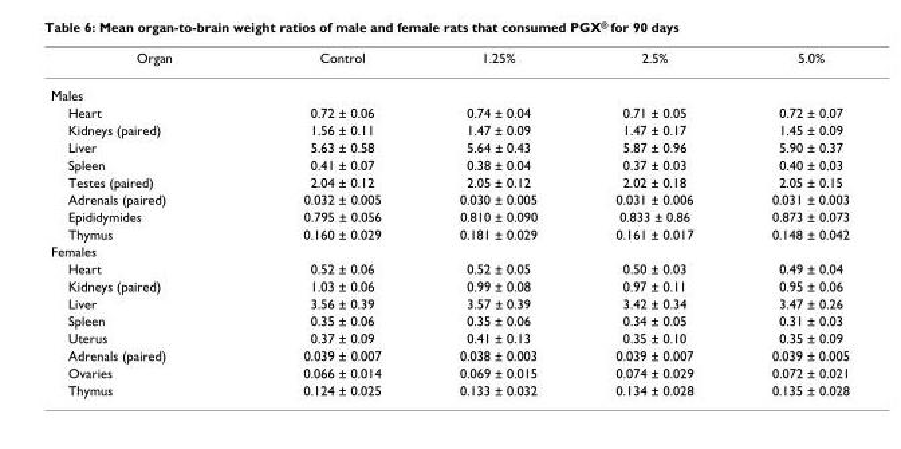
<table><thead><tr><td>Organ</td><td>Control</td><td>1.25%</td><td>2.5%</td><td>5.0%</td></tr></thead><tbody><tr><td colspan="5">Males</td></tr><tr><td>Heart</td><td>0.72 ± 0.06</td><td>0.74 ± 0.04</td><td>0.71 ± 0.05</td><td>0.72 ± 0.07</td></tr><tr><td>Kidneys (paired)</td><td>1.56 ± 0.11</td><td>1.47 ± 0.09</td><td>1.47 ± 0.17</td><td>1.45 ± 0.09</td></tr><tr><td>Liver</td><td>5.63 ± 0.58</td><td>5.64 ± 0.43</td><td>5.87 ± 0.96</td><td>5.90 ± 0.37</td></tr><tr><td>Spleen</td><td>0.41 ± 0.07</td><td>0.38 ± 0.04</td><td>0.37 ± 0.03</td><td>0.40 ± 0.03</td></tr><tr><td>Testes (paired)</td><td>2.04 ± 0.12</td><td>2.05 ± 0.12</td><td>2.02 ± 0.18</td><td>2.05 ± 0.15</td></tr><tr><td>Adrenals (paired)</td><td>0.032 ± 0.005</td><td>0.030 ± 0.005</td><td>0.031 ± 0.006</td><td>0.031 ± 0.003</td></tr><tr><td>Epididymides</td><td>0.795 ± 0.056</td><td>0.810 ± 0.090</td><td>0.833 ± 0.86</td><td>0.873 ± 0.073</td></tr><tr><td>Thymus</td><td>0.160 ± 0.029</td><td>0.181 ± 0.029</td><td>0.161 ± 0.017</td><td>0.148 ± 0.042</td></tr><tr><td colspan="5">Females</td></tr><tr><td>Heart</td><td>0.52 ± 0.06</td><td>0.52 ± 0.05</td><td>0.50 ± 0.03</td><td>0.49 ± 0.04</td></tr><tr><td>Kidneys (paired)</td><td>1.03 ± 0.06</td><td>0.99 ± 0.08</td><td>0.97 ± 0.11</td><td>0.95 ± 0.06</td></tr><tr><td>Liver</td><td>3.56 ± 0.39</td><td>3.57 ± 0.39</td><td>3.42 ± 0.34</td><td>3.47 ± 0.26</td></tr><tr><td>Spleen</td><td>0.35 ± 0.06</td><td>0.35 ± 0.06</td><td>0.34 ± 0.05</td><td>0.31 ± 0.03</td></tr><tr><td>Uterus</td><td>0.37 ± 0.09</td><td>0.41 ± 0.13</td><td>0.35 ± 0.10</td><td>0.35 ± 0.09</td></tr><tr><td>Adrenals (paired)</td><td>0.039 ± 0.007</td><td>0.038 ± 0.003</td><td>0.039 ± 0.007</td><td>0.039 ± 0.005</td></tr><tr><td>Ovaries</td><td>0.066 ± 0.014</td><td>0.069 ± 0.015</td><td>0.074 ± 0.029</td><td>0.072 ± 0.021</td></tr><tr><td>Thymus</td><td>0.124 ± 0.025</td><td>0.133 ± 0.032</td><td>0.134 ± 0.028</td><td>0.135 ± 0.028</td></tr></tbody></table>